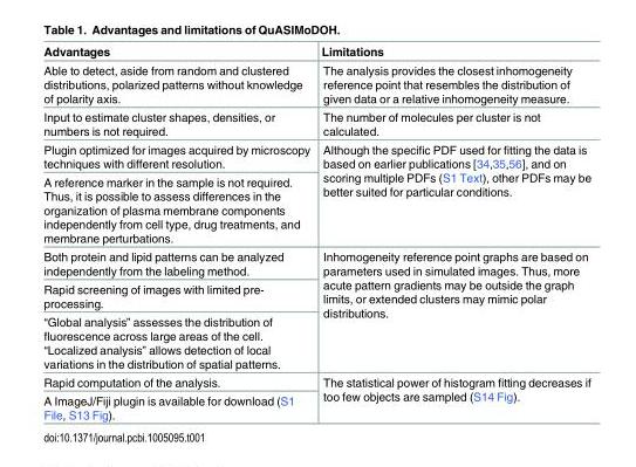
<table><thead><tr><td>Advantages</td><td>Limitations</td></tr></thead><tbody><tr><td>Able to detect, aside from random and clustered distributions, polarized patterns without knowledge of polarity axis.</td><td>The analysis provides the closest inhomogeneity reference point that resembles the distribution of given data or a relative inhomogeneity measure.</td></tr><tr><td>Input to estimate cluster shapes, densities, or numbers is not required.</td><td>The number of molecules per cluster is not calculated.</td></tr><tr><td>Plugin optimized for images acquired by microscopy techniques with different resolution.</td><td rowspan="2">Although the specific PDF used for fitting the data is based on earlier publications [34,35,56], and on scoring multiple PDFs (S1 Text), other PDFs may be better suited for particular conditions.</td></tr><tr><td>A reference marker in the sample is not required. Thus, it is possible to assess differences in the organization of plasma membrane components independently from cell type, drug treatments, and membrane perturbations.</td></tr><tr><td>Both protein and lipid patterns can be analyzed independently from the labeling method.</td><td rowspan="3">Inhomogeneity reference point graphs are based on parameters used in simulated images. Thus, more acute pattern gradients may be outside the graph limits, or extended clusters may mimic polar distributions.</td></tr><tr><td>Rapid screening of images with limited pre- processing.</td></tr><tr><td>“Global analysis” assesses the distribution of fluorescence across large areas of the cell. “Localized analysis” allows detection of local variations in the distribution of spatial patterns.</td></tr><tr><td>Rapid computation of the analysis.</td><td rowspan="2">The statistical power of histogram fitting decreases if too few objects are sampled (S14 Fig).</td></tr><tr><td>A ImageJ/Fiji plugin is available for download (S1 File, S13 Fig).</td></tr></tbody></table>